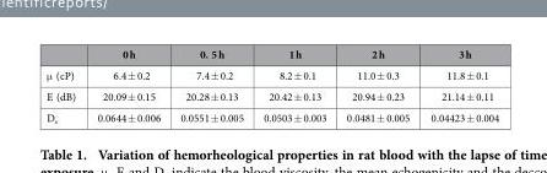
<table><thead><tr><td></td><td>0 h</td><td>0. 5 h</td><td>1 h</td><td>2 h</td><td>3 h</td></tr></thead><tbody><tr><td>μ (cP)</td><td>6.4 ± 0.2</td><td>7.4 ± 0.2</td><td>8.2 ± 0.1</td><td>11.0 ± 0.3</td><td>11.8 ± 0.1</td></tr><tr><td>E (dB)</td><td>20.09 ± 0.15</td><td>20.28 ± 0.13</td><td>20.42 ± 0.13</td><td>20.94 ± 0.23</td><td>21.14 ± 0.11</td></tr><tr><td>D<sub>s</sub></td><td>0.0644 ± 0.006</td><td>0.0551 ± 0.005</td><td>0.0503 ± 0.003</td><td>0.0481 ± 0.005</td><td>0.04423 ± 0.004</td></tr></tbody></table>